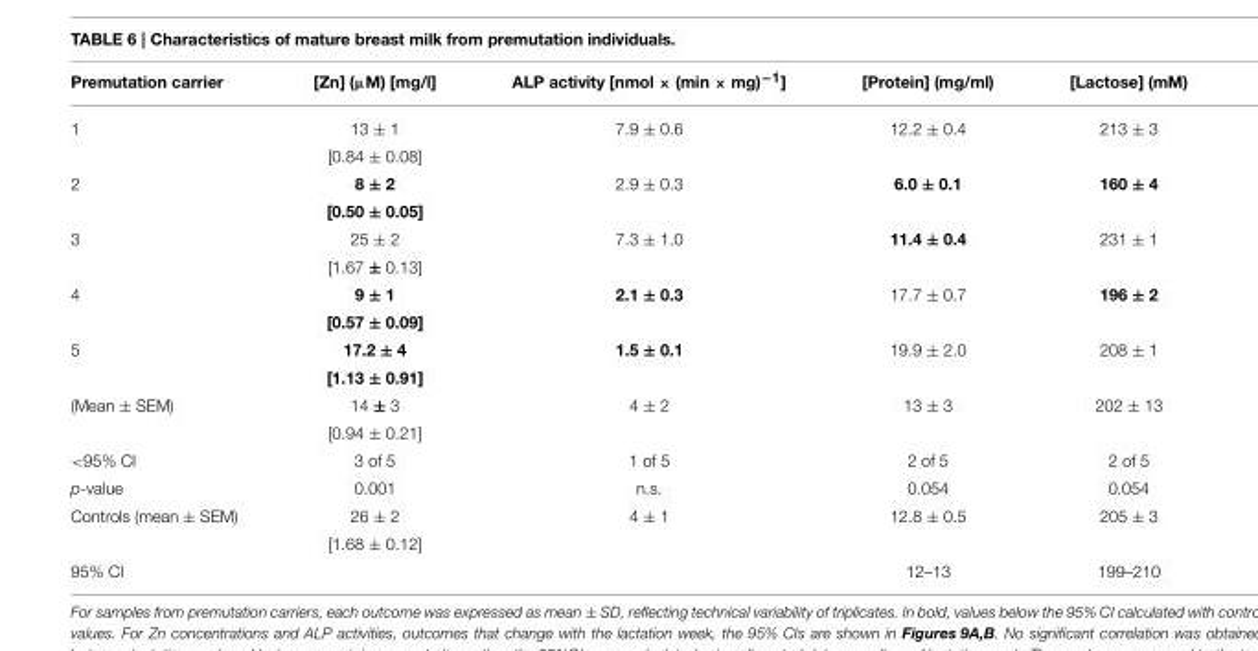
<table><thead><tr><td>Premutation carrier</td><td>[Zn] (µM) [mg/l]</td><td>ALP activity [nmol × (min × mg)<sup>−1</sup>]</td><td>[Protein] (mg/ml)</td><td>[Lactose] (mM)</td></tr></thead><tbody><tr><td rowspan="2">1</td><td>13 ± 1</td><td>7.9 ± 0.6</td><td>12.2 ± 0.4</td><td>213 ± 3</td></tr><tr><td>[0.84 ± 0.08]</td><td></td><td></td><td></td></tr><tr><td rowspan="2">2</td><td>8 ± 2</td><td>2.9 ± 0.3</td><td>6.0 ± 0.1</td><td>160 ± 4</td></tr><tr><td>[0.50 ± 0.05]</td><td></td><td></td><td></td></tr><tr><td rowspan="2">3</td><td>25 ± 2</td><td>7.3 ± 1.0</td><td>11.4 ± 0.4</td><td>231 ± 1</td></tr><tr><td>[1.67 ± 0.13]</td><td></td><td></td><td></td></tr><tr><td rowspan="2">4</td><td>9 ± 1</td><td>2.1 ± 0.3</td><td>17.7 ± 0.7</td><td>196 ± 2</td></tr><tr><td>[0.57 ± 0.09]</td><td></td><td></td><td></td></tr><tr><td rowspan="2">5</td><td>17.2 ± 4</td><td>1.5 ± 0.1</td><td>19.9 ± 2.0</td><td>208 ± 1</td></tr><tr><td>[1.13 ± 0.91]</td><td></td><td></td><td></td></tr><tr><td rowspan="2">(Mean ± SEM)</td><td>14 ± 3</td><td>4 ± 2</td><td>13 ± 3</td><td>202 ± 13</td></tr><tr><td>[0.94 ± 0.21]</td><td></td><td></td><td></td></tr><tr><td>&lt;95% CI</td><td>3 of 5</td><td>1 of 5</td><td>2 of 5</td><td>2 of 5</td></tr><tr><td>p-value</td><td>0.001</td><td>n.s.</td><td>0.054</td><td>0.054</td></tr><tr><td rowspan="2">Controls (mean ± SEM)</td><td>26 ± 2</td><td>4 ± 1</td><td>12.8 ± 0.5</td><td>205 ± 3</td></tr><tr><td>[1.68 ± 0.12]</td><td></td><td></td><td></td></tr><tr><td>95% CI</td><td></td><td></td><td>12–13</td><td>199–210</td></tr></tbody></table>